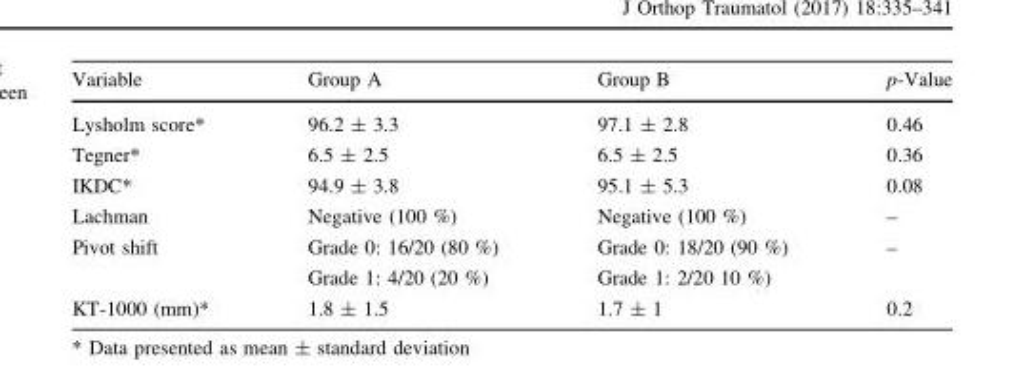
<table><thead><tr><td>Variable</td><td>Group A</td><td>Group B</td><td>p-Value</td></tr></thead><tbody><tr><td>Lysholm score*</td><td>96.2 ± 3.3</td><td>97.1 ± 2.8</td><td>0.46</td></tr><tr><td>Tegner*</td><td>6.5 ± 2.5</td><td>6.5 ± 2.5</td><td>0.36</td></tr><tr><td>IKDC*</td><td>94.9 ± 3.8</td><td>95.1 ± 5.3</td><td>0.08</td></tr><tr><td>Lachman</td><td>Negative (100 %)</td><td>Negative (100 %)</td><td>–</td></tr><tr><td>Pivot shift</td><td>Grade 0: 16/20 (80 %) Grade 1: 4/20 (20 %)</td><td>Grade 0: 18/20 (90 %) Grade 1: 2/20 10 %)</td><td>–</td></tr><tr><td>KT-1000 (mm)*</td><td>1.8 ± 1.5</td><td>1.7 ± 1</td><td>0.2</td></tr></tbody></table>